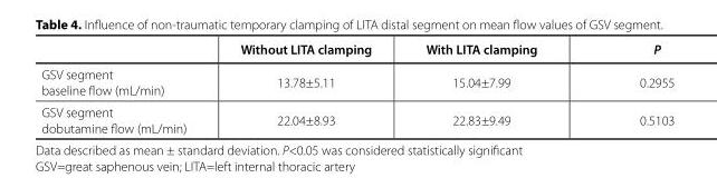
<table><thead><tr><td></td><td>Without LITA clamping</td><td>With LITA clamping</td><td>P</td></tr></thead><tbody><tr><td>GSV segment baseline flow (mL/min)</td><td>13.78±5.11</td><td>15.04±7.99</td><td>0.2955</td></tr><tr><td>GSV segment dobutamine flow (mL/min)</td><td>22.04±8.93</td><td>22.83±9.49</td><td>0.5103</td></tr></tbody></table>